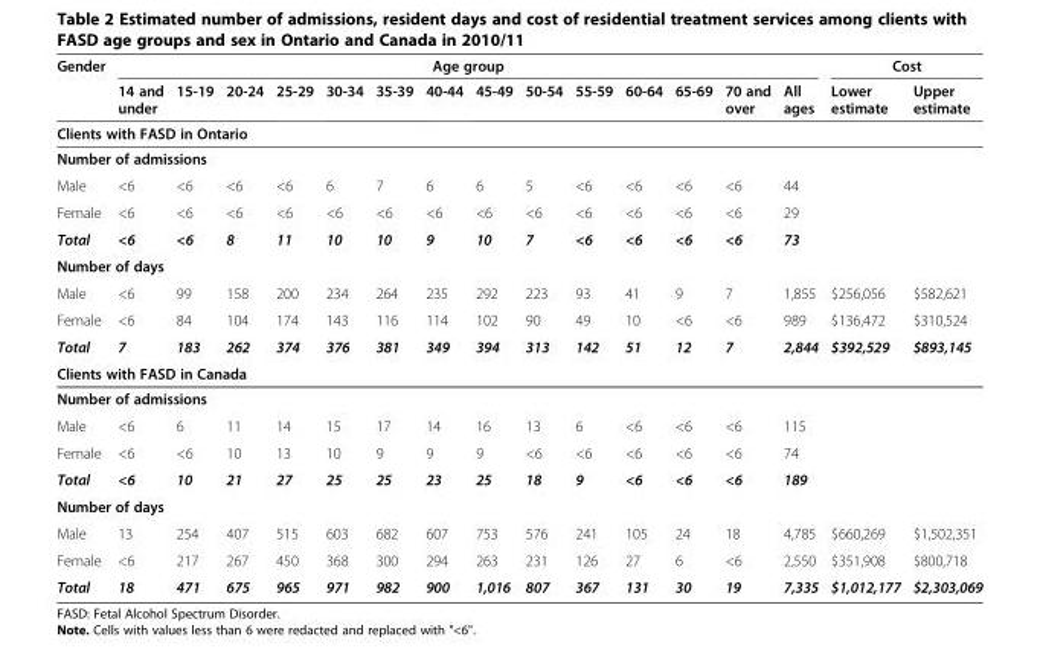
<table><thead><tr><td rowspan="2">Gender</td><td colspan="14">Age group</td><td colspan="2">Cost</td></tr><tr><td>14 and under</td><td>15-19</td><td>20-24</td><td>25-29</td><td>30-34</td><td>35-39</td><td>40-44</td><td>45-49</td><td>50-54</td><td>55-59</td><td>60-64</td><td>65-69</td><td>70 and over</td><td>All ages</td><td>Lower estimate</td><td>Upper estimate</td></tr></thead><tbody><tr><td colspan="17">Clients with FASD in Ontario</td></tr><tr><td colspan="17">Number of admissions</td></tr><tr><td>Male</td><td>&lt;6</td><td>&lt;6</td><td>&lt;6</td><td>&lt;6</td><td>6</td><td>7</td><td>6</td><td>6</td><td>5</td><td>&lt;6</td><td>&lt;6</td><td>&lt;6</td><td>&lt;6</td><td>44</td><td></td><td></td></tr><tr><td>Female</td><td>&lt;6</td><td>&lt;6</td><td>&lt;6</td><td>&lt;6</td><td>&lt;6</td><td>&lt;6</td><td>&lt;6</td><td>&lt;6</td><td>&lt;6</td><td>&lt;6</td><td>&lt;6</td><td>&lt;6</td><td>&lt;6</td><td>29</td><td></td><td></td></tr><tr><td>Total</td><td>&lt;6</td><td>&lt;6</td><td>8</td><td>11</td><td>10</td><td>10</td><td>9</td><td>10</td><td>7</td><td>&lt;6</td><td>&lt;6</td><td>&lt;6</td><td>&lt;6</td><td>73</td><td></td><td></td></tr><tr><td colspan="17">Number of days</td></tr><tr><td>Male</td><td>&lt;6</td><td>99</td><td>158</td><td>200</td><td>234</td><td>264</td><td>235</td><td>292</td><td>223</td><td>93</td><td>41</td><td>9</td><td>7</td><td>1,855</td><td>$256,056</td><td>$582,621</td></tr><tr><td>Female</td><td>&lt;6</td><td>84</td><td>104</td><td>174</td><td>143</td><td>116</td><td>114</td><td>102</td><td>90</td><td>49</td><td>10</td><td>&lt;6</td><td>&lt;6</td><td>989</td><td>$136,472</td><td>$310,524</td></tr><tr><td>Total</td><td>7</td><td>183</td><td>262</td><td>374</td><td>376</td><td>381</td><td>349</td><td>394</td><td>313</td><td>142</td><td>51</td><td>12</td><td>7</td><td>2,844</td><td>$392,529</td><td>$893,145</td></tr><tr><td colspan="17">Clients with FASD in Canada</td></tr><tr><td colspan="17">Number of admissions</td></tr><tr><td>Male</td><td>&lt;6</td><td>6</td><td>11</td><td>14</td><td>15</td><td>17</td><td>14</td><td>16</td><td>13</td><td>6</td><td>&lt;6</td><td>&lt;6</td><td>&lt;6</td><td>115</td><td></td><td></td></tr><tr><td>Female</td><td>&lt;6</td><td>&lt;6</td><td>10</td><td>13</td><td>10</td><td>9</td><td>9</td><td>9</td><td>&lt;6</td><td>&lt;6</td><td>&lt;6</td><td>&lt;6</td><td>&lt;6</td><td>74</td><td></td><td></td></tr><tr><td>Total</td><td>&lt;6</td><td>10</td><td>21</td><td>27</td><td>25</td><td>25</td><td>23</td><td>25</td><td>18</td><td>9</td><td>&lt;6</td><td>&lt;6</td><td>&lt;6</td><td>189</td><td></td><td></td></tr><tr><td colspan="17">Number of days</td></tr><tr><td>Male</td><td>13</td><td>254</td><td>407</td><td>515</td><td>603</td><td>682</td><td>607</td><td>753</td><td>576</td><td>241</td><td>105</td><td>24</td><td>18</td><td>4,785</td><td>$660,269</td><td>$1,502,351</td></tr><tr><td>Female</td><td>&lt;6</td><td>217</td><td>267</td><td>450</td><td>368</td><td>300</td><td>294</td><td>263</td><td>231</td><td>126</td><td>27</td><td>6</td><td>&lt;6</td><td>2,550</td><td>$351,908</td><td>$800,718</td></tr><tr><td>Total</td><td>18</td><td>471</td><td>675</td><td>965</td><td>971</td><td>982</td><td>900</td><td>1,016</td><td>807</td><td>367</td><td>131</td><td>30</td><td>19</td><td>7,335</td><td>$1,012,177</td><td>$2,303,069</td></tr></tbody></table>